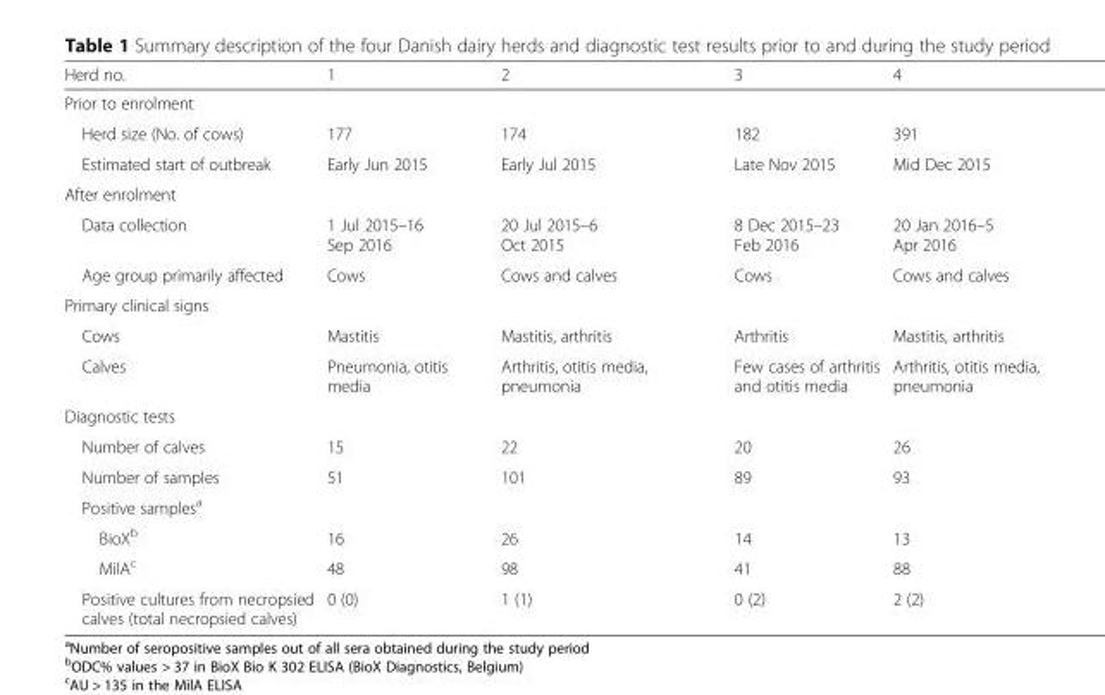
<table><thead><tr><td>Herd no.</td><td>1</td><td>2</td><td>3</td><td>4</td></tr></thead><tbody><tr><td colspan="5">Prior to enrolment</td></tr><tr><td>Herd size (No. of cows)</td><td>177</td><td>174</td><td>182</td><td>391</td></tr><tr><td>Estimated start of outbreak</td><td>Early Jun 2015</td><td>Early Jul 2015</td><td>Late Nov 2015</td><td>Mid Dec 2015</td></tr><tr><td colspan="5">After enrolment</td></tr><tr><td>Data collection</td><td>1 Jul 2015–16 Sep 2016</td><td>20 Jul 2015–6 Oct 2015</td><td>8 Dec 2015–23 Feb 2016</td><td>20 Jan 2016–5 Apr 2016</td></tr><tr><td>Age group primarily affected</td><td>Cows</td><td>Cows and calves</td><td>Cows</td><td>Cows and calves</td></tr><tr><td colspan="5">Primary clinical signs</td></tr><tr><td>Cows</td><td>Mastitis</td><td>Mastitis, arthritis</td><td>Arthritis</td><td>Mastitis, arthritis</td></tr><tr><td>Calves</td><td>Pneumonia, otitis media</td><td>Arthritis, otitis media, pneumonia</td><td>Few cases of arthritis and otitis media</td><td>Arthritis, otitis media, pneumonia</td></tr><tr><td colspan="5">Diagnostic tests</td></tr><tr><td>Number of calves</td><td>15</td><td>22</td><td>20</td><td>26</td></tr><tr><td>Number of samples</td><td>51</td><td>101</td><td>89</td><td>93</td></tr><tr><td colspan="5">Positive samples<sup>a</sup></td></tr><tr><td>BioX<sup>b</sup></td><td>16</td><td>26</td><td>14</td><td>13</td></tr><tr><td>MilA<sup>c</sup></td><td>48</td><td>98</td><td>41</td><td>88</td></tr><tr><td>Positive cultures from necropsied calves (total necropsied calves)</td><td>0 (0)</td><td>1 (1)</td><td>0 (2)</td><td>2 (2)</td></tr></tbody></table>